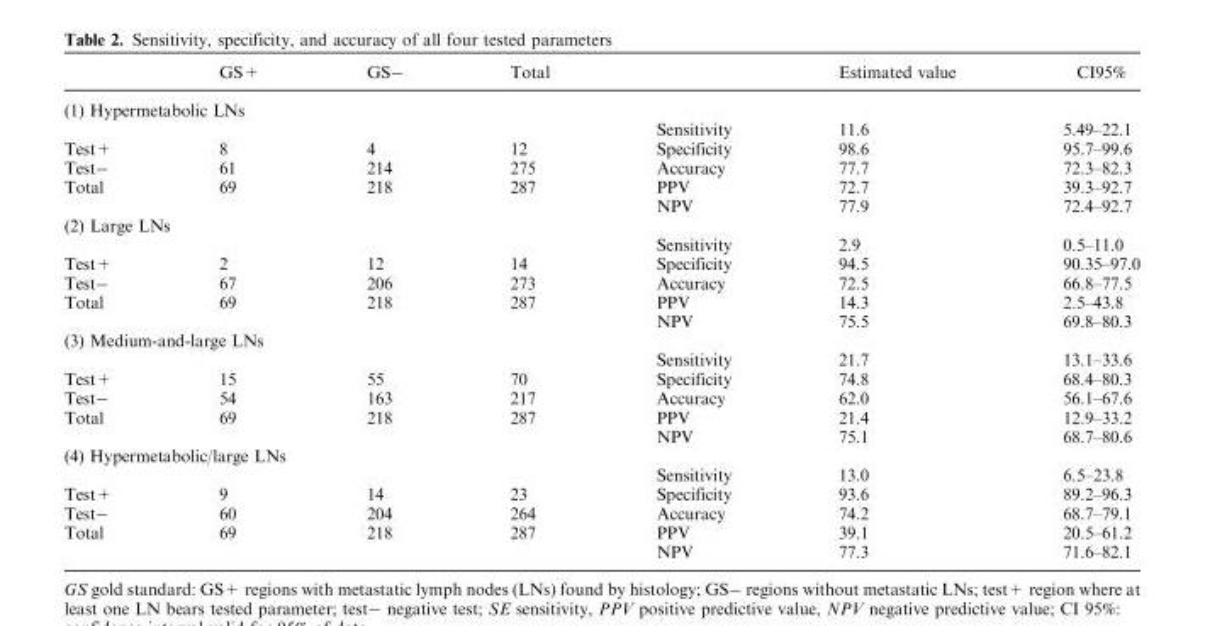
<table><thead><tr><td></td><td>GS+</td><td>GS-</td><td>Total</td><td></td><td>Estimated value</td><td>CI95%</td></tr></thead><tbody><tr><td colspan="7">(1) Hypermetabolic LNs</td></tr><tr><td></td><td></td><td></td><td></td><td>Sensitivity</td><td>11.6</td><td>5.49–22.1</td></tr><tr><td>Test+</td><td>8</td><td>4</td><td>12</td><td>Specificity</td><td>98.6</td><td>95.7–99.6</td></tr><tr><td>Test-</td><td>61</td><td>214</td><td>275</td><td>Accuracy</td><td>77.7</td><td>72.3–82.3</td></tr><tr><td rowspan="2">Total</td><td>69</td><td>218</td><td>287</td><td>PPV</td><td>72.7</td><td>39.3–92.7</td></tr><tr><td></td><td></td><td></td><td>NPV</td><td>77.9</td><td>72.4–92.7</td></tr><tr><td colspan="7">(2) Large LNs</td></tr><tr><td></td><td></td><td></td><td></td><td>Sensitivity</td><td>2.9</td><td>0.5–11.0</td></tr><tr><td>Test+</td><td>2</td><td>12</td><td>14</td><td>Specificity</td><td>94.5</td><td>90.35–97.0</td></tr><tr><td>Test-</td><td>67</td><td>206</td><td>273</td><td>Accuracy</td><td>72.5</td><td>66.8–77.5</td></tr><tr><td rowspan="2">Total</td><td>69</td><td>218</td><td>287</td><td>PPV</td><td>14.3</td><td>2.5–43.8</td></tr><tr><td></td><td></td><td></td><td>NPV</td><td>75.5</td><td>69.8–80.3</td></tr><tr><td colspan="7">(3) Medium-and-large LNs</td></tr><tr><td></td><td></td><td></td><td></td><td>Sensitivity</td><td>21.7</td><td>13.1–33.6</td></tr><tr><td>Test+</td><td>15</td><td>55</td><td>70</td><td>Specificity</td><td>74.8</td><td>68.4–80.3</td></tr><tr><td>Test-</td><td>54</td><td>163</td><td>217</td><td>Accuracy</td><td>62.0</td><td>56.1–67.6</td></tr><tr><td rowspan="2">Total</td><td>69</td><td>218</td><td>287</td><td>PPV</td><td>21.4</td><td>12.9–33.2</td></tr><tr><td></td><td></td><td></td><td>NPV</td><td>75.1</td><td>68.7–80.6</td></tr><tr><td colspan="7">(4) Hypermetabolic/large LNs</td></tr><tr><td></td><td></td><td></td><td></td><td>Sensitivity</td><td>13.0</td><td>6.5–23.8</td></tr><tr><td>Test+</td><td>9</td><td>14</td><td>23</td><td>Specificity</td><td>93.6</td><td>89.2–96.3</td></tr><tr><td>Test-</td><td>60</td><td>204</td><td>264</td><td>Accuracy</td><td>74.2</td><td>68.7–79.1</td></tr><tr><td rowspan="2">Total</td><td>69</td><td>218</td><td>287</td><td>PPV</td><td>39.1</td><td>20.5–61.2</td></tr><tr><td></td><td></td><td></td><td>NPV</td><td>77.3</td><td>71.6–82.1</td></tr></tbody></table>